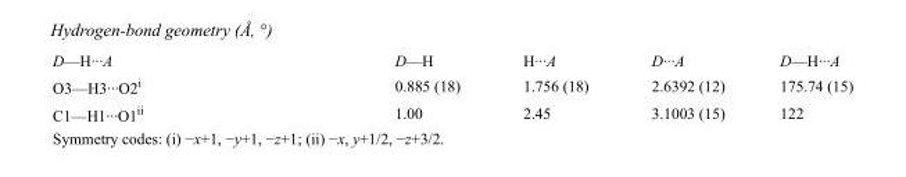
<table><tbody><tr><td>D—H···A</td><td>D—H</td><td>H···A</td><td>D···A</td><td>D—H···A</td></tr><tr><td>O3—H3···O2<sup>i</sup></td><td>0.885 (18)</td><td>1.756 (18)</td><td>2.6392 (12)</td><td>175.74 (15)</td></tr><tr><td>C1—H1···O1<sup>ii</sup></td><td>1.00</td><td>2.45</td><td>3.1003 (15)</td><td>122</td></tr></tbody></table>